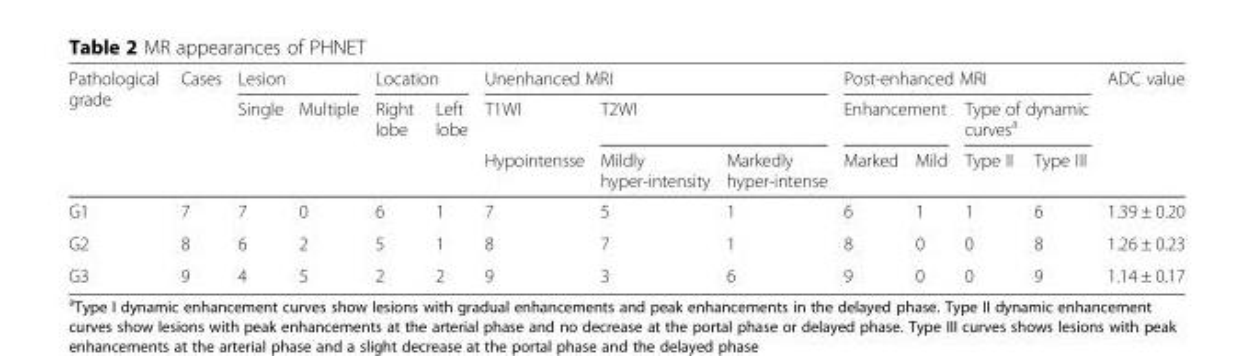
<table><thead><tr><td rowspan="3">Pathological grade</td><td rowspan="3">Cases</td><td colspan="2">Lesion</td><td colspan="2">Location</td><td colspan="3">Unenhanced MRI</td><td colspan="4">Post-enhanced MRI</td><td rowspan="3">ADC value</td></tr><tr><td rowspan="2">Single</td><td rowspan="2">Multiple</td><td rowspan="2">Right lobe</td><td rowspan="2">Left lobe</td><td rowspan="2">T1WI Hypointensse</td><td colspan="2">T2WI</td><td colspan="2">Enhancement</td><td colspan="2">Type of dynamic curves<sup>a</sup></td></tr><tr><td>Mildly hyper-intensity</td><td>Markedly hyper-intense</td><td>Marked</td><td>Mild</td><td>Type II</td><td>Type III</td></tr></thead><tbody><tr><td>G1</td><td>7</td><td>7</td><td>0</td><td>6</td><td>1</td><td>7</td><td>5</td><td>1</td><td>6</td><td>1</td><td>1</td><td>6</td><td>1.39 ± 0.20</td></tr><tr><td>G2</td><td>8</td><td>6</td><td>2</td><td>5</td><td>1</td><td>8</td><td>7</td><td>1</td><td>8</td><td>0</td><td>0</td><td>8</td><td>1.26 ± 0.23</td></tr><tr><td>G3</td><td>9</td><td>4</td><td>5</td><td>2</td><td>2</td><td>9</td><td>3</td><td>6</td><td>9</td><td>0</td><td>0</td><td>9</td><td>1.14 ± 0.17</td></tr></tbody></table>